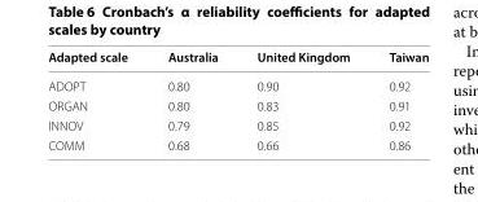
<table><thead><tr><td>Adapted scale</td><td>Australia</td><td>United Kingdom</td><td>Taiwan</td></tr></thead><tbody><tr><td>ADOPT</td><td>0.80</td><td>0.90</td><td>0.92</td></tr><tr><td>ORGAN</td><td>0.80</td><td>0.83</td><td>0.91</td></tr><tr><td>INNOV</td><td>0.79</td><td>0.85</td><td>0.92</td></tr><tr><td>COMM</td><td>0.68</td><td>0.66</td><td>0.86</td></tr></tbody></table>